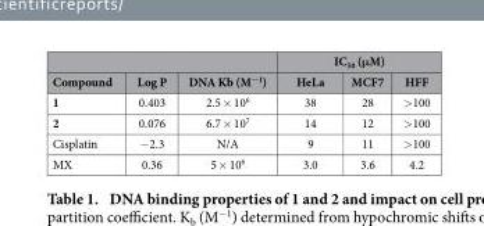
<table><thead><tr><td rowspan="2">Compound</td><td rowspan="2">Log P</td><td rowspan="2">DNA Kb (M<sup>−1</sup>)</td><td colspan="3">IC<sub>50</sub> (μM)</td></tr><tr><td>HeLa</td><td>MCF7</td><td>HFF</td></tr></thead><tbody><tr><td>1</td><td>0.403</td><td>2.5 × 10<sup>6</sup></td><td>38</td><td>28</td><td>&gt;100</td></tr><tr><td>2</td><td>0.076</td><td>6.7 × 10<sup>7</sup></td><td>14</td><td>12</td><td>&gt;100</td></tr><tr><td>Cisplatin</td><td>−2.3</td><td>N/A</td><td>9</td><td>11</td><td>&gt;100</td></tr><tr><td>MX</td><td>0.36</td><td>5 × 10<sup>6</sup></td><td>3.0</td><td>3.6</td><td>4.2</td></tr></tbody></table>